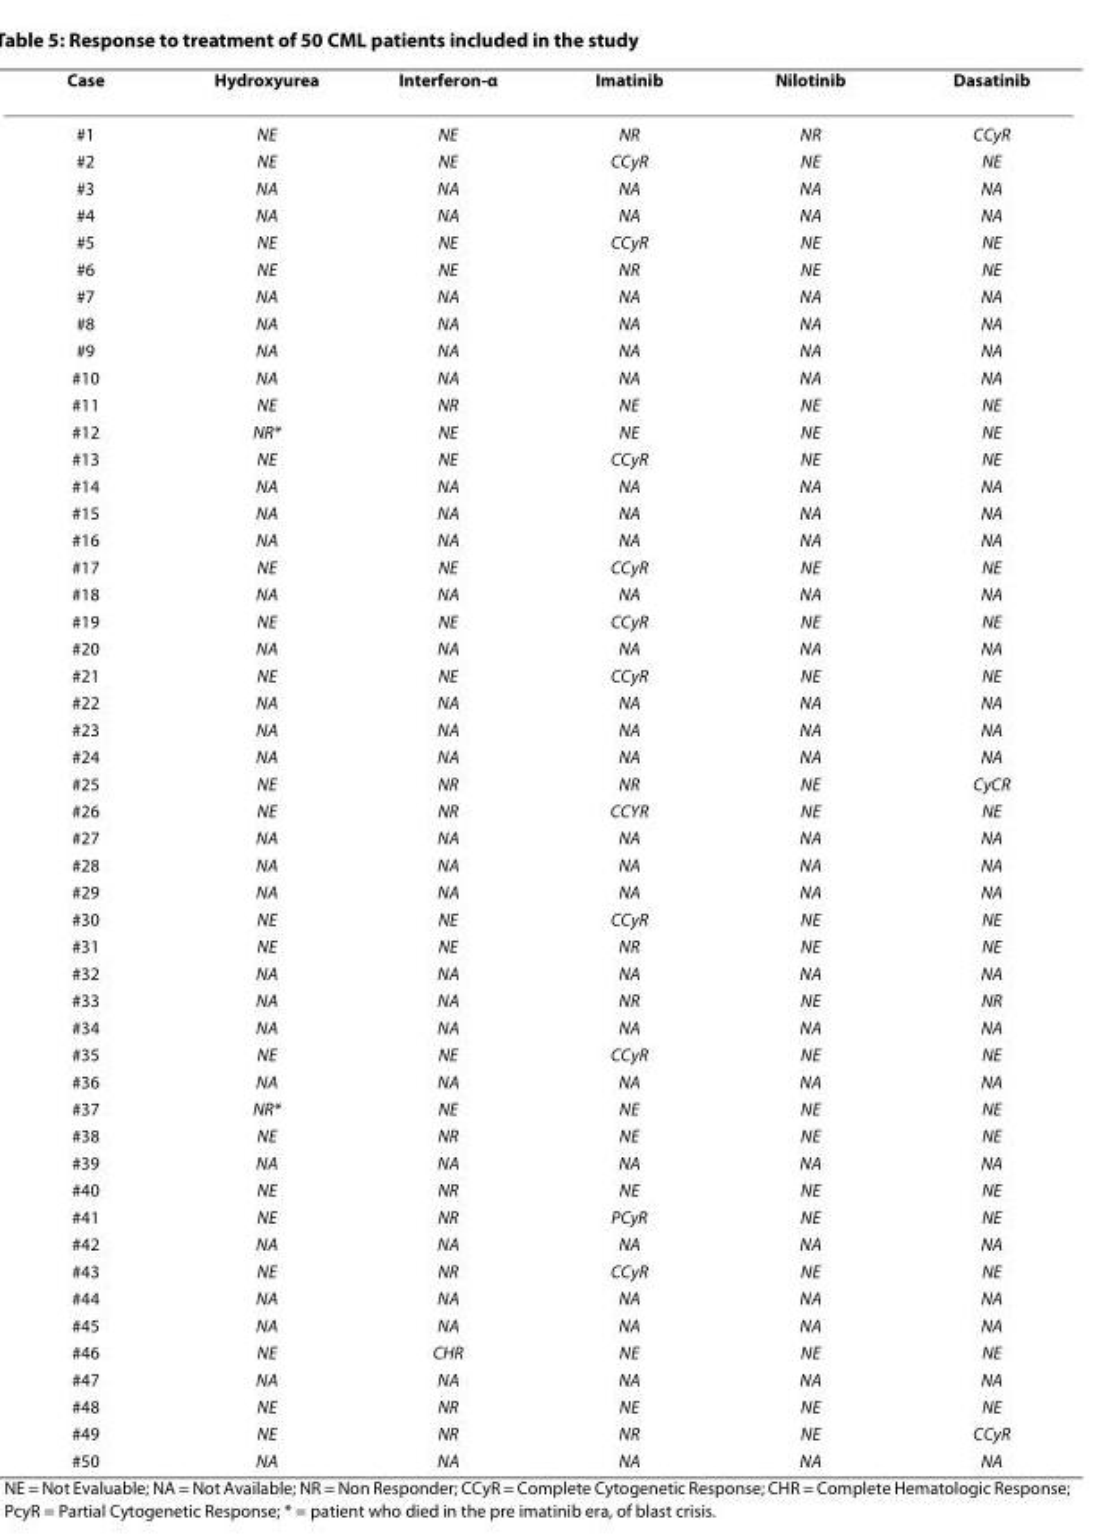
<table><thead><tr><td>Case</td><td>Hydroxyurea</td><td>Interferon-α</td><td>Imatinib</td><td>Nilotinib</td><td>Dasatinib</td></tr></thead><tbody><tr><td>#1</td><td>NE</td><td>NE</td><td>NR</td><td>NR</td><td>CCyR</td></tr><tr><td>#2</td><td>NE</td><td>NE</td><td>CCyR</td><td>NE</td><td>NE</td></tr><tr><td>#3</td><td>NA</td><td>NA</td><td>NA</td><td>NA</td><td>NA</td></tr><tr><td>#4</td><td>NA</td><td>NA</td><td>NA</td><td>NA</td><td>NA</td></tr><tr><td>#5</td><td>NE</td><td>NE</td><td>CCyR</td><td>NE</td><td>NE</td></tr><tr><td>#6</td><td>NE</td><td>NE</td><td>NR</td><td>NE</td><td>NE</td></tr><tr><td>#7</td><td>NA</td><td>NA</td><td>NA</td><td>NA</td><td>NA</td></tr><tr><td>#8</td><td>NA</td><td>NA</td><td>NA</td><td>NA</td><td>NA</td></tr><tr><td>#9</td><td>NA</td><td>NA</td><td>NA</td><td>NA</td><td>NA</td></tr><tr><td>#10</td><td>NA</td><td>NA</td><td>NA</td><td>NA</td><td>NA</td></tr><tr><td>#11</td><td>NE</td><td>NR</td><td>NE</td><td>NE</td><td>NE</td></tr><tr><td>#12</td><td>NR*</td><td>NE</td><td>NE</td><td>NE</td><td>NE</td></tr><tr><td>#13</td><td>NE</td><td>NE</td><td>CCyR</td><td>NE</td><td>NE</td></tr><tr><td>#14</td><td>NA</td><td>NA</td><td>NA</td><td>NA</td><td>NA</td></tr><tr><td>#15</td><td>NA</td><td>NA</td><td>NA</td><td>NA</td><td>NA</td></tr><tr><td>#16</td><td>NA</td><td>NA</td><td>NA</td><td>NA</td><td>NA</td></tr><tr><td>#17</td><td>NE</td><td>NE</td><td>CCyR</td><td>NE</td><td>NE</td></tr><tr><td>#18</td><td>NA</td><td>NA</td><td>NA</td><td>NA</td><td>NA</td></tr><tr><td>#19</td><td>NE</td><td>NE</td><td>CCyR</td><td>NE</td><td>NE</td></tr><tr><td>#20</td><td>NA</td><td>NA</td><td>NA</td><td>NA</td><td>NA</td></tr><tr><td>#21</td><td>NE</td><td>NE</td><td>CCyR</td><td>NE</td><td>NE</td></tr><tr><td>#22</td><td>NA</td><td>NA</td><td>NA</td><td>NA</td><td>NA</td></tr><tr><td>#23</td><td>NA</td><td>NA</td><td>NA</td><td>NA</td><td>NA</td></tr><tr><td>#24</td><td>NA</td><td>NA</td><td>NA</td><td>NA</td><td>NA</td></tr><tr><td>#25</td><td>NE</td><td>NR</td><td>NR</td><td>NE</td><td>CyCR</td></tr><tr><td>#26</td><td>NE</td><td>NR</td><td>CCYR</td><td>NE</td><td>NE</td></tr><tr><td>#27</td><td>NA</td><td>NA</td><td>NA</td><td>NA</td><td>NA</td></tr><tr><td>#28</td><td>NA</td><td>NA</td><td>NA</td><td>NA</td><td>NA</td></tr><tr><td>#29</td><td>NA</td><td>NA</td><td>NA</td><td>NA</td><td>NA</td></tr><tr><td>#30</td><td>NE</td><td>NE</td><td>CCyR</td><td>NE</td><td>NE</td></tr><tr><td>#31</td><td>NE</td><td>NE</td><td>NR</td><td>NE</td><td>NE</td></tr><tr><td>#32</td><td>NA</td><td>NA</td><td>NA</td><td>NA</td><td>NA</td></tr><tr><td>#33</td><td>NA</td><td>NA</td><td>NR</td><td>NE</td><td>NR</td></tr><tr><td>#34</td><td>NA</td><td>NA</td><td>NA</td><td>NA</td><td>NA</td></tr><tr><td>#35</td><td>NE</td><td>NE</td><td>CCyR</td><td>NE</td><td>NE</td></tr><tr><td>#36</td><td>NA</td><td>NA</td><td>NA</td><td>NA</td><td>NA</td></tr><tr><td>#37</td><td>NR*</td><td>NE</td><td>NE</td><td>NE</td><td>NE</td></tr><tr><td>#38</td><td>NE</td><td>NR</td><td>NE</td><td>NE</td><td>NE</td></tr><tr><td>#39</td><td>NA</td><td>NA</td><td>NA</td><td>NA</td><td>NA</td></tr><tr><td>#40</td><td>NE</td><td>NR</td><td>NE</td><td>NE</td><td>NE</td></tr><tr><td>#41</td><td>NE</td><td>NR</td><td>PCyR</td><td>NE</td><td>NE</td></tr><tr><td>#42</td><td>NA</td><td>NA</td><td>NA</td><td>NA</td><td>NA</td></tr><tr><td>#43</td><td>NE</td><td>NR</td><td>CCyR</td><td>NE</td><td>NE</td></tr><tr><td>#44</td><td>NA</td><td>NA</td><td>NA</td><td>NA</td><td>NA</td></tr><tr><td>#45</td><td>NA</td><td>NA</td><td>NA</td><td>NA</td><td>NA</td></tr><tr><td>#46</td><td>NE</td><td>CHR</td><td>NE</td><td>NE</td><td>NE</td></tr><tr><td>#47</td><td>NA</td><td>NA</td><td>NA</td><td>NA</td><td>NA</td></tr><tr><td>#48</td><td>NE</td><td>NR</td><td>NE</td><td>NE</td><td>NE</td></tr><tr><td>#49</td><td>NE</td><td>NR</td><td>NR</td><td>NE</td><td>CCyR</td></tr><tr><td>#50</td><td>NA</td><td>NA</td><td>NA</td><td>NA</td><td>NA</td></tr></tbody></table>